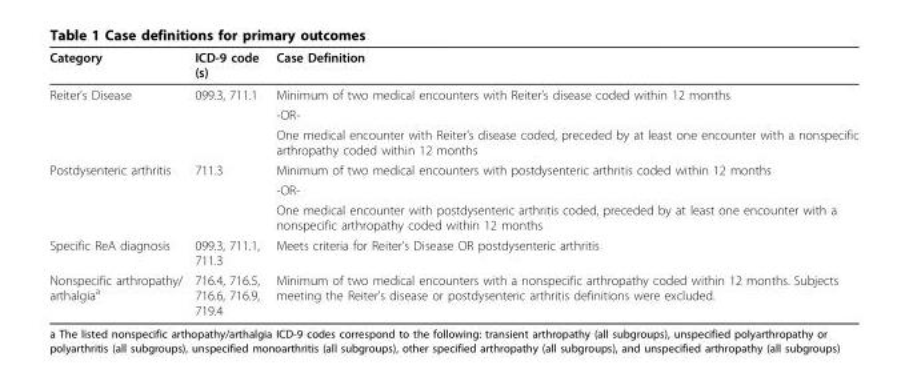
<table><thead><tr><td>Category</td><td>ICD-9 code (s)</td><td>Case Definition</td></tr></thead><tbody><tr><td rowspan="3">Reiter’s Disease</td><td>099.3, 711.1</td><td>Minimum of two medical encounters with Reiter’s disease coded within 12 months</td></tr><tr><td></td><td>-OR-</td></tr><tr><td></td><td>One medical encounter with Reiter’s disease coded, preceded by at least one encounter with a nonspecific arthropathy coded within 12 months</td></tr><tr><td rowspan="3">Postdysenteric arthritis</td><td>711.3</td><td>Minimum of two medical encounters with postdysenteric arthritis coded within 12 months</td></tr><tr><td></td><td>-OR-</td></tr><tr><td></td><td>One medical encounter with postdysenteric arthritis coded, preceded by at least one encounter with a nonspecific arthropathy coded within 12 months</td></tr><tr><td>Specific ReA diagnosis</td><td>099.3, 711.1, 711.3</td><td>Meets criteria for Reiter’s Disease OR postdysenteric arthritis</td></tr><tr><td>Nonspecific arthropathy/ arthalgia<sup>a</sup></td><td>716.4, 716.5, 716.6, 716.9, 719.4</td><td>Minimum of two medical encounters with a nonspecific arthropathy coded within 12 months. Subjects meeting the Reiter’s disease or postdysenteric arthritis definitions were excluded.</td></tr></tbody></table>